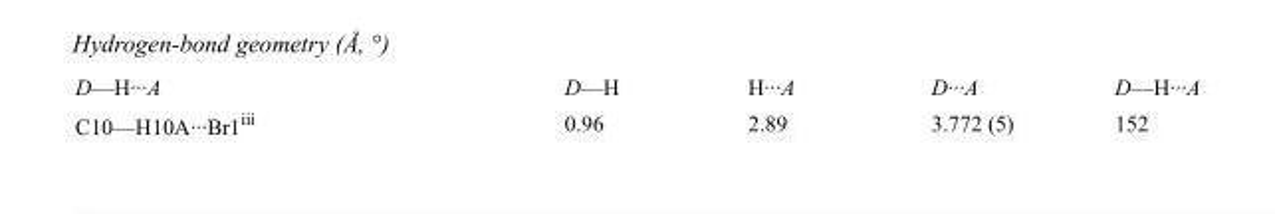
<table><tbody><tr><td>D—H···A</td><td>D—H</td><td>H···A</td><td>D···A</td><td>D—H···A</td></tr><tr><td>C10—H10A···Br1<sup>iii</sup></td><td>0.96</td><td>2.89</td><td>3.772 (5)</td><td>152</td></tr></tbody></table>